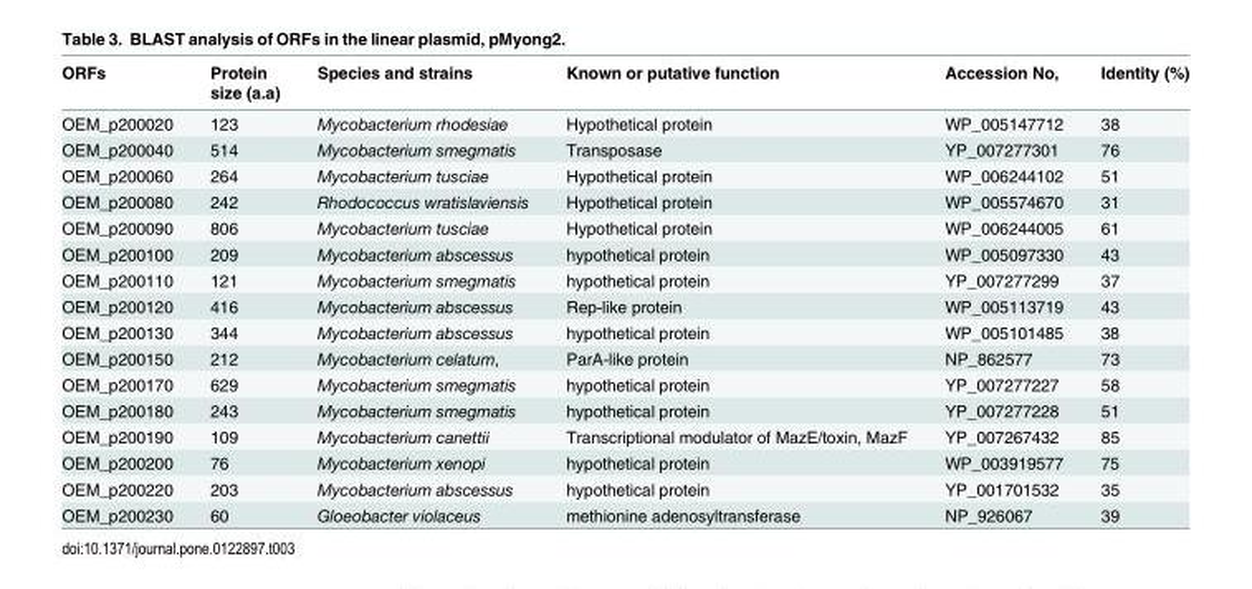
<table><thead><tr><td>ORFs</td><td>Protein size (a.a)</td><td>Species and strains</td><td>Known or putative function</td><td>Accession No,</td><td>Identity (%)</td></tr></thead><tbody><tr><td>OEM_p200020</td><td>123</td><td>Mycobacterium rhodesiae</td><td>Hypothetical protein</td><td>WP_005147712</td><td>38</td></tr><tr><td>OEM_p200040</td><td>514</td><td>Mycobacterium smegmatis</td><td>Transposase</td><td>YP_007277301</td><td>76</td></tr><tr><td>OEM_p200060</td><td>264</td><td>Mycobacterium tusciae</td><td>Hypothetical protein</td><td>WP_006244102</td><td>51</td></tr><tr><td>OEM_p200080</td><td>242</td><td>Rhodococcus wratislaviensis</td><td>Hypothetical protein</td><td>WP_005574670</td><td>31</td></tr><tr><td>OEM_p200090</td><td>806</td><td>Mycobacterium tusciae</td><td>Hypothetical protein</td><td>WP_006244005</td><td>61</td></tr><tr><td>OEM_p200100</td><td>209</td><td>Mycobacterium abscessus</td><td>hypothetical protein</td><td>WP_005097330</td><td>43</td></tr><tr><td>OEM_p200110</td><td>121</td><td>Mycobacterium smegmatis</td><td>hypothetical protein</td><td>YP_007277299</td><td>37</td></tr><tr><td>OEM_p200120</td><td>416</td><td>Mycobacterium abscessus</td><td>Rep-like protein</td><td>WP_005113719</td><td>43</td></tr><tr><td>OEM_p200130</td><td>344</td><td>Mycobacterium abscessus</td><td>hypothetical protein</td><td>WP_005101485</td><td>38</td></tr><tr><td>OEM_p200150</td><td>212</td><td>Mycobacterium celatum,</td><td>ParA-like protein</td><td>NP_862577</td><td>73</td></tr><tr><td>OEM_p200170</td><td>629</td><td>Mycobacterium smegmatis</td><td>hypothetical protein</td><td>YP_007277227</td><td>58</td></tr><tr><td>OEM_p200180</td><td>243</td><td>Mycobacterium smegmatis</td><td>hypothetical protein</td><td>YP_007277228</td><td>51</td></tr><tr><td>OEM_p200190</td><td>109</td><td>Mycobacterium canettii</td><td>Transcriptional modulator of MazE/toxin, MazF</td><td>YP_007267432</td><td>85</td></tr><tr><td>OEM_p200200</td><td>76</td><td>Mycobacterium xenopi</td><td>hypothetical protein</td><td>WP_003919577</td><td>75</td></tr><tr><td>OEM_p200220</td><td>203</td><td>Mycobacterium abscessus</td><td>hypothetical protein</td><td>YP_001701532</td><td>35</td></tr><tr><td>OEM_p200230</td><td>60</td><td>Gloeobacter violaceus</td><td>methionine adenosyltransferase</td><td>NP_926067</td><td>39</td></tr></tbody></table>